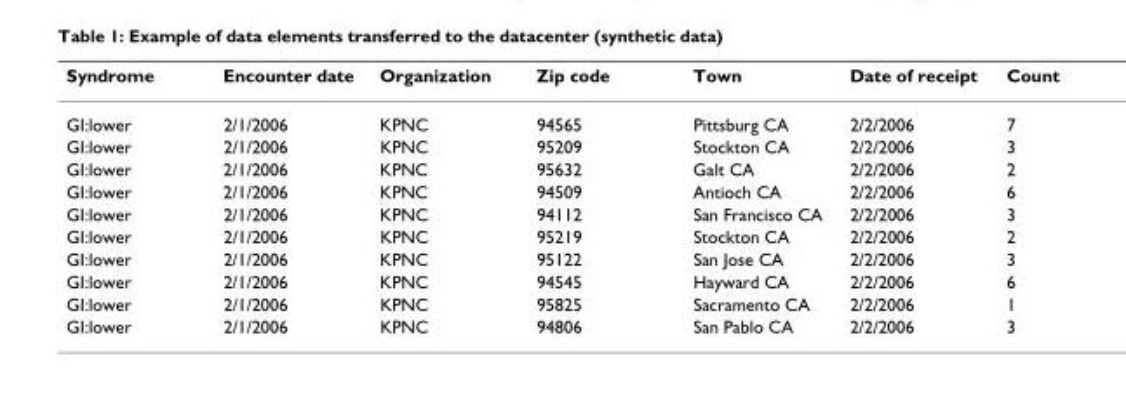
<table><thead><tr><td>Syndrome</td><td>Encounter date</td><td>Organization</td><td>Zip code</td><td>Town</td><td>Date of receipt</td><td>Count</td></tr></thead><tbody><tr><td>GI:lower</td><td>2/1/2006</td><td>KPNC</td><td>94565</td><td>Pittsburg CA</td><td>2/2/2006</td><td>7</td></tr><tr><td>GI:lower</td><td>2/1/2006</td><td>KPNC</td><td>95209</td><td>Stockton CA</td><td>2/2/2006</td><td>3</td></tr><tr><td>GI:lower</td><td>2/1/2006</td><td>KPNC</td><td>95632</td><td>Galt CA</td><td>2/2/2006</td><td>2</td></tr><tr><td>GI:lower</td><td>2/1/2006</td><td>KPNC</td><td>94509</td><td>Antioch CA</td><td>2/2/2006</td><td>6</td></tr><tr><td>GI:lower</td><td>2/1/2006</td><td>KPNC</td><td>94112</td><td>San Francisco CA</td><td>2/2/2006</td><td>3</td></tr><tr><td>GI:lower</td><td>2/1/2006</td><td>KPNC</td><td>95219</td><td>Stockton CA</td><td>2/2/2006</td><td>2</td></tr><tr><td>GI:lower</td><td>2/1/2006</td><td>KPNC</td><td>95122</td><td>San Jose CA</td><td>2/2/2006</td><td>3</td></tr><tr><td>GI:lower</td><td>2/1/2006</td><td>KPNC</td><td>94545</td><td>Hayward CA</td><td>2/2/2006</td><td>6</td></tr><tr><td>GI:lower</td><td>2/1/2006</td><td>KPNC</td><td>95825</td><td>Sacramento CA</td><td>2/2/2006</td><td>1</td></tr><tr><td>GI:lower</td><td>2/1/2006</td><td>KPNC</td><td>94806</td><td>San Pablo CA</td><td>2/2/2006</td><td>3</td></tr></tbody></table>